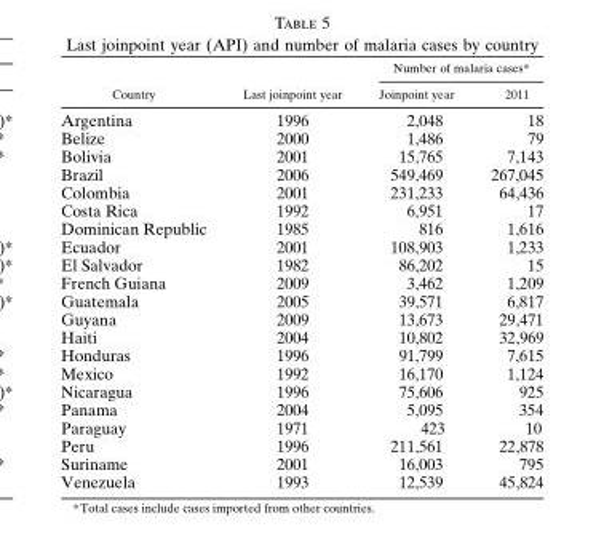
<table><thead><tr><td rowspan="2">Country</td><td rowspan="2">Last joinpoint year</td><td colspan="2">Number of malaria cases*</td></tr><tr><td>Joinpoint year</td><td>2011</td></tr></thead><tbody><tr><td>Argentina</td><td>1996</td><td>2,048</td><td>18</td></tr><tr><td>Belize</td><td>2000</td><td>1,486</td><td>79</td></tr><tr><td>Bolivia</td><td>2001</td><td>15,765</td><td>7,143</td></tr><tr><td>Brazil</td><td>2006</td><td>549,469</td><td>267,045</td></tr><tr><td>Colombia</td><td>2001</td><td>231,233</td><td>64,436</td></tr><tr><td>Costa Rica</td><td>1992</td><td>6,951</td><td>17</td></tr><tr><td>Dominican Republic</td><td>1985</td><td>816</td><td>1,616</td></tr><tr><td>Ecuador</td><td>2001</td><td>108,903</td><td>1,233</td></tr><tr><td>El Salvador</td><td>1982</td><td>86,202</td><td>15</td></tr><tr><td>French Guiana</td><td>2009</td><td>3,462</td><td>1,209</td></tr><tr><td>Guatemala</td><td>2005</td><td>39,571</td><td>6,817</td></tr><tr><td>Guyana</td><td>2009</td><td>13,673</td><td>29,471</td></tr><tr><td>Haiti</td><td>2004</td><td>10,802</td><td>32,969</td></tr><tr><td>Honduras</td><td>1996</td><td>91,799</td><td>7,615</td></tr><tr><td>Mexico</td><td>1992</td><td>16,170</td><td>1,124</td></tr><tr><td>Nicaragua</td><td>1996</td><td>75,606</td><td>925</td></tr><tr><td>Panama</td><td>2004</td><td>5,095</td><td>354</td></tr><tr><td>Paraguay</td><td>1971</td><td>423</td><td>10</td></tr><tr><td>Peru</td><td>1996</td><td>211,561</td><td>22,878</td></tr><tr><td>Suriname</td><td>2001</td><td>16,003</td><td>795</td></tr><tr><td>Venezuela</td><td>1993</td><td>12,539</td><td>45,824</td></tr></tbody></table>